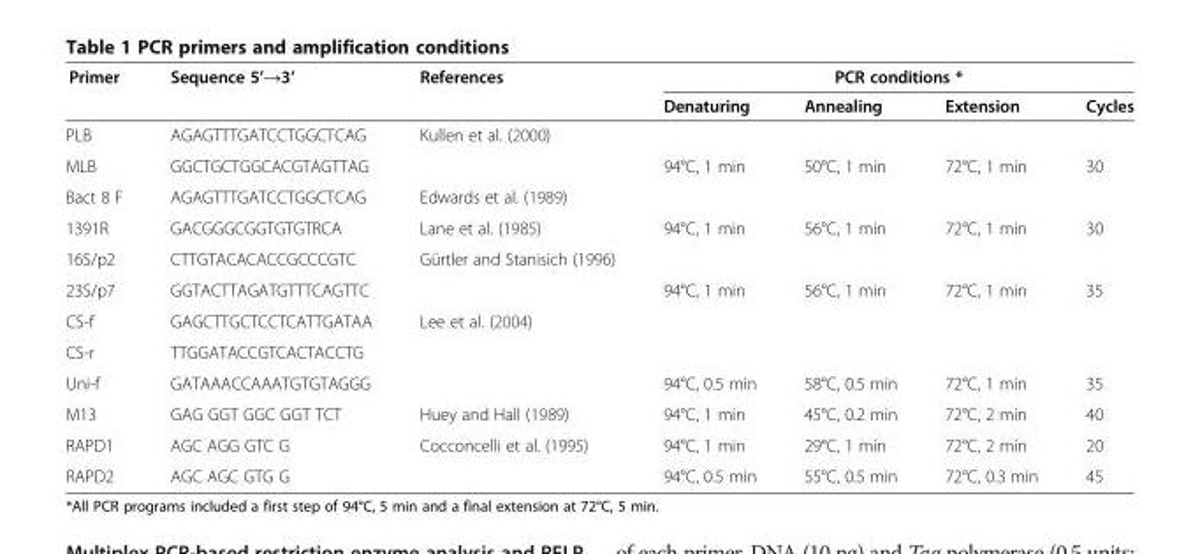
<table><thead><tr><td rowspan="2">Primer</td><td rowspan="2">Sequence 5’→3’</td><td rowspan="2">References</td><td colspan="4">PCR conditions *</td></tr><tr><td>Denaturing</td><td>Annealing</td><td>Extension</td><td>Cycles</td></tr></thead><tbody><tr><td>PLB</td><td>AGAGTTTGATCCTGGCTCAG</td><td>Kullen et al. (2000)</td><td></td><td></td><td></td><td></td></tr><tr><td>MLB</td><td>GGCTGCTGGCACGTAGTTAG</td><td></td><td>94°C, 1 min</td><td>50°C, 1 min</td><td>72°C, 1 min</td><td>30</td></tr><tr><td>Bact 8 F</td><td>AGAGTTTGATCCTGGCTCAG</td><td>Edwards et al. (1989)</td><td></td><td></td><td></td><td></td></tr><tr><td>1391R</td><td>GACGGGCGGTGTGTRCA</td><td>Lane et al. (1985)</td><td>94°C, 1 min</td><td>56°C, 1 min</td><td>72°C, 1 min</td><td>30</td></tr><tr><td>16S/p2</td><td>CTTGTACACACCGCCCGTC</td><td>Gürtler and Stanisich (1996)</td><td></td><td></td><td></td><td></td></tr><tr><td>23S/p7</td><td>GGTACTTAGATGTTTCAGTTC</td><td></td><td>94°C, 1 min</td><td>56°C, 1 min</td><td>72°C, 1 min</td><td>35</td></tr><tr><td>CS-f</td><td>GAGCTTGCTCCTCATTGATAA</td><td>Lee et al. (2004)</td><td></td><td></td><td></td><td></td></tr><tr><td>CS-r</td><td>TTGGATACCGTCACTACCTG</td><td></td><td></td><td></td><td></td><td></td></tr><tr><td>Uni-f</td><td>GATAAACCAAATGTGTAGGG</td><td></td><td>94°C, 0.5 min</td><td>58°C, 0.5 min</td><td>72°C, 1 min</td><td>35</td></tr><tr><td>M13</td><td>GAG GGT GGC GGT TCT</td><td>Huey and Hall (1989)</td><td>94°C, 1 min</td><td>45°C, 0.2 min</td><td>72°C, 2 min</td><td>40</td></tr><tr><td>RAPD1</td><td>AGC AGG GTC G</td><td rowspan="2">Cocconcelli et al. (1995)</td><td>94°C, 1 min</td><td>29°C, 1 min</td><td>72°C, 2 min</td><td>20</td></tr><tr><td>RAPD2</td><td>AGC AGC GTG G</td><td>94°C, 0.5 min</td><td>55°C, 0.5 min</td><td>72°C, 0.3 min</td><td>45</td></tr></tbody></table>